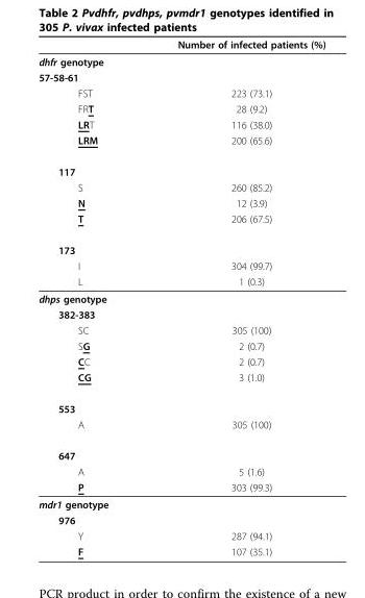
<table><thead><tr><td></td><td>Number of infected patients (%)</td></tr></thead><tbody><tr><td colspan="2">dhfr genotype</td></tr><tr><td colspan="2">57-58-61</td></tr><tr><td>FST</td><td>223 (73.1)</td></tr><tr><td>FRT</td><td>28 (9.2)</td></tr><tr><td>LRT</td><td>116 (38.0)</td></tr><tr><td>LRM</td><td>200 (65.6)</td></tr><tr><td colspan="2">117</td></tr><tr><td>S</td><td>260 (85.2)</td></tr><tr><td>N</td><td>12 (3.9)</td></tr><tr><td>T</td><td>206 (67.5)</td></tr><tr><td colspan="2">173</td></tr><tr><td>I</td><td>304 (99.7)</td></tr><tr><td>L</td><td>1 (0.3)</td></tr><tr><td colspan="2">dhps genotype</td></tr><tr><td colspan="2">382-383</td></tr><tr><td>SC</td><td>305 (100)</td></tr><tr><td>SG</td><td>2 (0.7)</td></tr><tr><td>CC</td><td>2 (0.7)</td></tr><tr><td>CG</td><td>3 (1.0)</td></tr><tr><td colspan="2">553</td></tr><tr><td>A</td><td>305 (100)</td></tr><tr><td colspan="2">647</td></tr><tr><td>A</td><td>5 (1.6)</td></tr><tr><td>P</td><td>303 (99.3)</td></tr><tr><td colspan="2">mdr1 genotype</td></tr><tr><td colspan="2">976</td></tr><tr><td>Y</td><td>287 (94.1)</td></tr><tr><td>F</td><td>107 (35.1)</td></tr></tbody></table>